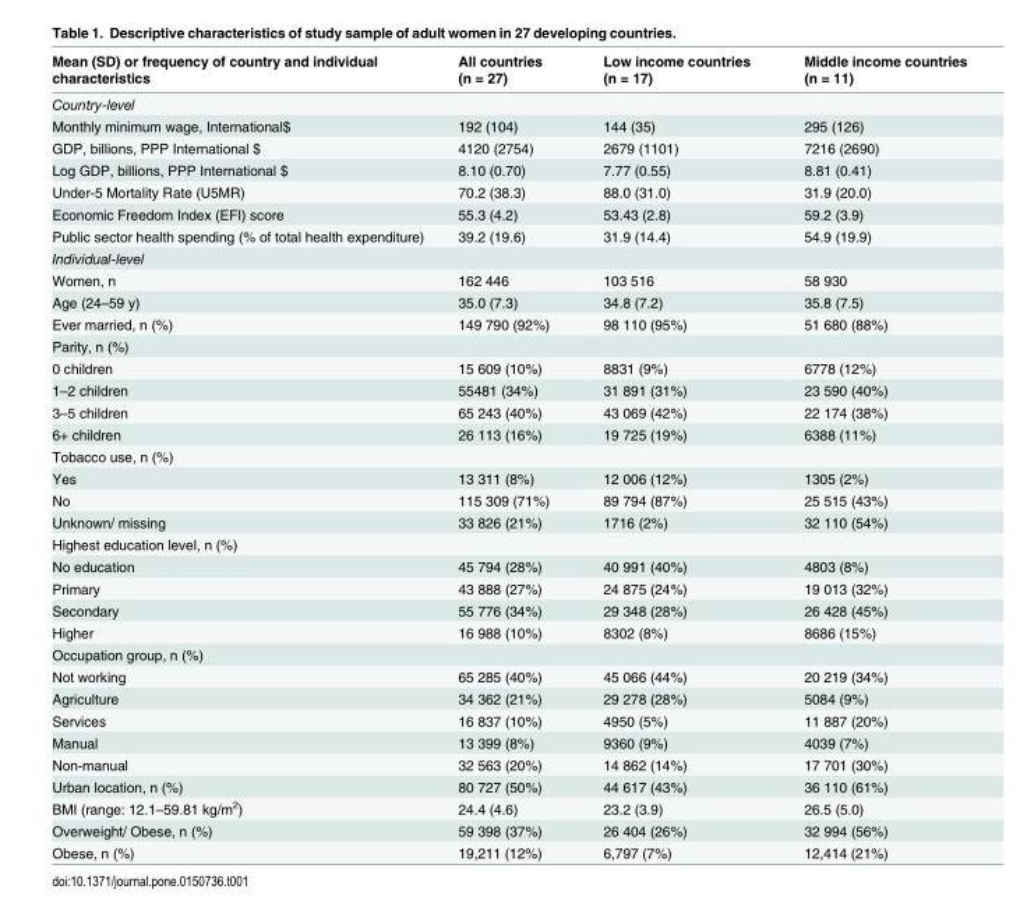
<table><thead><tr><td>Mean (SD) or frequency of country and individual characteristics</td><td>All countries (n = 27)</td><td>Low income countries (n = 17)</td><td>Middle income countries (n = 11)</td></tr></thead><tbody><tr><td colspan="4">Country-level</td></tr><tr><td>Monthly minimum wage, International$</td><td>192 (104)</td><td>144 (35)</td><td>295 (126)</td></tr><tr><td>GDP, billions, PPP International $</td><td>4120 (2754)</td><td>2679 (1101)</td><td>7216 (2690)</td></tr><tr><td>Log GDP, billions, PPP International $</td><td>8.10 (0.70)</td><td>7.77 (0.55)</td><td>8.81 (0.41)</td></tr><tr><td>Under-5 Mortality Rate (U5MR)</td><td>70.2 (38.3)</td><td>88.0 (31.0)</td><td>31.9 (20.0)</td></tr><tr><td>Economic Freedom Index (EFI) score</td><td>55.3 (4.2)</td><td>53.43 (2.8)</td><td>59.2 (3.9)</td></tr><tr><td>Public sector health spending (% of total health expenditure)</td><td>39.2 (19.6)</td><td>31.9 (14.4)</td><td>54.9 (19.9)</td></tr><tr><td colspan="4">Individual-level</td></tr><tr><td>Women, n</td><td>162 446</td><td>103 516</td><td>58 930</td></tr><tr><td>Age (24–59 y)</td><td>35.0 (7.3)</td><td>34.8 (7.2)</td><td>35.8 (7.5)</td></tr><tr><td>Ever married, n (%)</td><td>149 790 (92%)</td><td>98 110 (95%)</td><td>51 680 (88%)</td></tr><tr><td colspan="4">Parity, n (%)</td></tr><tr><td>0 children</td><td>15 609 (10%)</td><td>8831 (9%)</td><td>6778 (12%)</td></tr><tr><td>1–2 children</td><td>55481 (34%)</td><td>31 891 (31%)</td><td>23 590 (40%)</td></tr><tr><td>3–5 children</td><td>65 243 (40%)</td><td>43 069 (42%)</td><td>22 174 (38%)</td></tr><tr><td>6+ children</td><td>26 113 (16%)</td><td>19 725 (19%)</td><td>6388 (11%)</td></tr><tr><td colspan="4">Tobacco use, n (%)</td></tr><tr><td>Yes</td><td>13 311 (8%)</td><td>12 006 (12%)</td><td>1305 (2%)</td></tr><tr><td>No</td><td>115 309 (71%)</td><td>89 794 (87%)</td><td>25 515 (43%)</td></tr><tr><td>Unknown/ missing</td><td>33 826 (21%)</td><td>1716 (2%)</td><td>32 110 (54%)</td></tr><tr><td colspan="4">Highest education level, n (%)</td></tr><tr><td>No education</td><td>45 794 (28%)</td><td>40 991 (40%)</td><td>4803 (8%)</td></tr><tr><td>Primary</td><td>43 888 (27%)</td><td>24 875 (24%)</td><td>19 013 (32%)</td></tr><tr><td>Secondary</td><td>55 776 (34%)</td><td>29 348 (28%)</td><td>26 428 (45%)</td></tr><tr><td>Higher</td><td>16 988 (10%)</td><td>8302 (8%)</td><td>8686 (15%)</td></tr><tr><td colspan="4">Occupation group, n (%)</td></tr><tr><td>Not working</td><td>65 285 (40%)</td><td>45 066 (44%)</td><td>20 219 (34%)</td></tr><tr><td>Agriculture</td><td>34 362 (21%)</td><td>29 278 (28%)</td><td>5084 (9%)</td></tr><tr><td>Services</td><td>16 837 (10%)</td><td>4950 (5%)</td><td>11 887 (20%)</td></tr><tr><td>Manual</td><td>13 399 (8%)</td><td>9360 (9%)</td><td>4039 (7%)</td></tr><tr><td>Non-manual</td><td>32 563 (20%)</td><td>14 862 (14%)</td><td>17 701 (30%)</td></tr><tr><td>Urban location, n (%)</td><td>80 727 (50%)</td><td>44 617 (43%)</td><td>36 110 (61%)</td></tr><tr><td>BMI (range: 12.1–59.81 kg/m<sup>2</sup>)</td><td>24.4 (4.6)</td><td>23.2 (3.9)</td><td>26.5 (5.0)</td></tr><tr><td>Overweight/ Obese, n (%)</td><td>59 398 (37%)</td><td>26 404 (26%)</td><td>32 994 (56%)</td></tr><tr><td>Obese, n (%)</td><td>19,211 (12%)</td><td>6,797 (7%)</td><td>12,414 (21%)</td></tr></tbody></table>